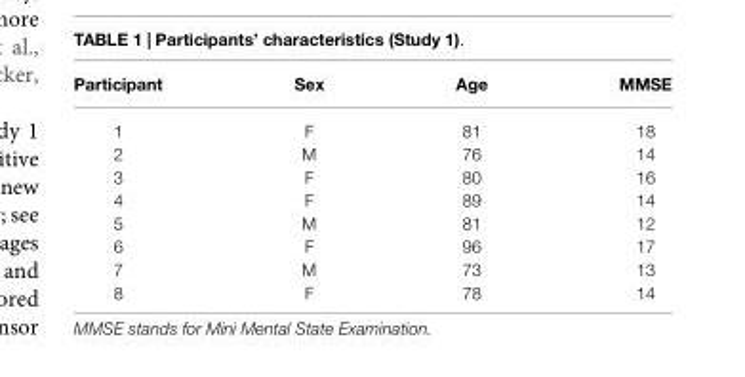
<table><thead><tr><td>Participant</td><td>Sex</td><td>Age</td><td>MMSE</td></tr></thead><tbody><tr><td>1</td><td>F</td><td>81</td><td>18</td></tr><tr><td>2</td><td>M</td><td>76</td><td>14</td></tr><tr><td>3</td><td>F</td><td>80</td><td>16</td></tr><tr><td>4</td><td>F</td><td>89</td><td>14</td></tr><tr><td>5</td><td>M</td><td>81</td><td>12</td></tr><tr><td>6</td><td>F</td><td>96</td><td>17</td></tr><tr><td>7</td><td>M</td><td>73</td><td>13</td></tr><tr><td>8</td><td>F</td><td>78</td><td>14</td></tr></tbody></table>